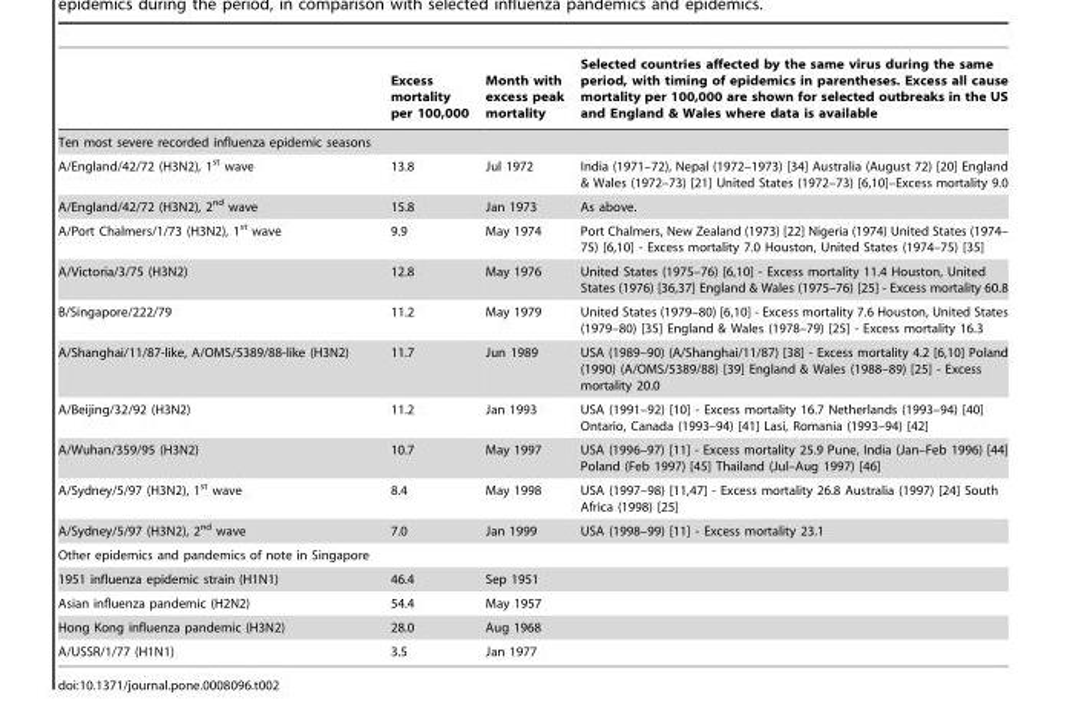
<table><thead><tr><td></td><td>Excess mortality per 100,000</td><td>Month with excess peak mortality</td><td>Selected countries affected by the same virus during the same period, with timing of epidemics in parentheses. Excess all cause mortality per 100,000 are shown for selected outbreaks in the US and England &amp; Wales where data is available</td></tr></thead><tbody><tr><td colspan="4">Ten most severe recorded influenza epidemic seasons</td></tr><tr><td>A/England/42/72 (H3N2), 1<sup>st</sup> wave</td><td>13.8</td><td>Jul 1972</td><td>India (1971–72), Nepal (1972–1973) [34] Australia (August 72) [20] England &amp; Wales (1972–73) [21] United States (1972–73) [6,10]–Excess mortality 9.0</td></tr><tr><td>A/England/42/72 (H3N2), 2<sup>nd</sup> wave</td><td>15.8</td><td>Jan 1973</td><td>As above.</td></tr><tr><td>A/Port Chalmers/1/73 (H3N2), 1<sup>st</sup> wave</td><td>9.9</td><td>May 1974</td><td>Port Chalmers, New Zealand (1973) [22] Nigeria (1974) United States (1974– 75) [6,10] - Excess mortality 7.0 Houston, United States (1974–75) [35]</td></tr><tr><td>A/Victoria/3/75 (H3N2)</td><td>12.8</td><td>May 1976</td><td>United States (1975–76) [6,10] - Excess mortality 11.4 Houston, United States (1976) [36,37] England &amp; Wales (1975–76) [25] - Excess mortality 60.8</td></tr><tr><td>B/Singapore/222/79</td><td>11.2</td><td>May 1979</td><td>United States (1979–80) [6,10] - Excess mortality 7.6 Houston, United States (1979–80) [35] England &amp; Wales (1978–79) [25] - Excess mortality 16.3</td></tr><tr><td>A/Shanghai/11/87-like, A/OMS/5389/88-like (H3N2)</td><td>11.7</td><td>Jun 1989</td><td>USA (1989–90) (A/Shanghai/11/87) [38] - Excess mortality 4.2 [6,10] Poland (1990) (A/OMS/5389/88) [39] England &amp; Wales (1988–89) [25] - Excess mortality 20.0</td></tr><tr><td>A/Beijing/32/92 (H3N2)</td><td>11.2</td><td>Jan 1993</td><td>USA (1991–92) [10] - Excess mortality 16.7 Netherlands (1993–94) [40] Ontario, Canada (1993–94) [41] Lasi, Romania (1993–94) [42]</td></tr><tr><td>A/Wuhan/359/95 (H3N2)</td><td>10.7</td><td>May 1997</td><td>USA (1996–97) [11] - Excess mortality 25.9 Pune, India (Jan–Feb 1996) [44] Poland (Feb 1997) [45] Thailand (Jul–Aug 1997) [46]</td></tr><tr><td>A/Sydney/5/97 (H3N2), 1<sup>st</sup> wave</td><td>8.4</td><td>May 1998</td><td>USA (1997–98) [11,47] - Excess mortality 26.8 Australia (1997) [24] South Africa (1998) [25]</td></tr><tr><td>A/Sydney/5/97 (H3N2), 2<sup>nd</sup> wave</td><td>7.0</td><td>Jan 1999</td><td>USA (1998–99) [11] - Excess mortality 23.1</td></tr><tr><td colspan="4">Other epidemics and pandemics of note in Singapore</td></tr><tr><td>1951 influenza epidemic strain (H1N1)</td><td>46.4</td><td>Sep 1951</td><td></td></tr><tr><td>Asian influenza pandemic (H2N2)</td><td>54.4</td><td>May 1957</td><td></td></tr><tr><td>Hong Kong influenza pandemic (H3N2)</td><td>28.0</td><td>Aug 1968</td><td></td></tr><tr><td>A/USSR/1/77 (H1N1)</td><td>3.5</td><td>Jan 1977</td><td></td></tr></tbody></table>